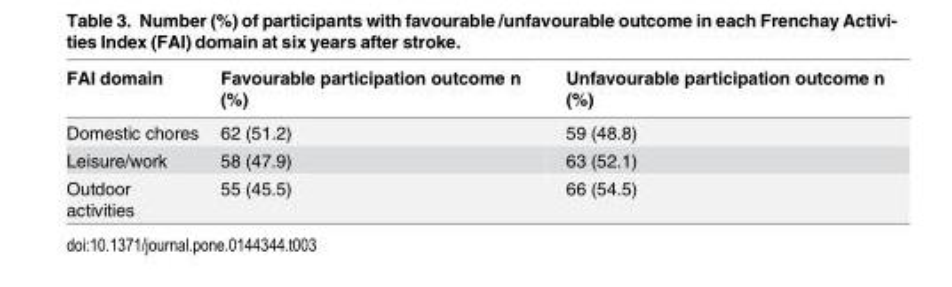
<table><thead><tr><td>FAI domain</td><td>Favourable participation outcome n (%)</td><td>Unfavourable participation outcome n (%)</td></tr></thead><tbody><tr><td>Domestic chores</td><td>62 (51.2)</td><td>59 (48.8)</td></tr><tr><td>Leisure/work</td><td>58 (47.9)</td><td>63 (52.1)</td></tr><tr><td>Outdoor activities</td><td>55 (45.5)</td><td>66 (54.5)</td></tr></tbody></table>